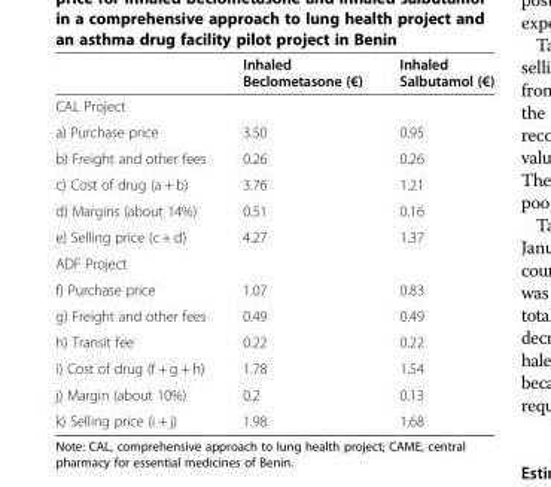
<table><thead><tr><td></td><td>Inhaled Beclometasone (€)</td><td>Inhaled Salbutamol (€)</td></tr></thead><tbody><tr><td colspan="3">CAL Project</td></tr><tr><td>a) Purchase price</td><td>3.50</td><td>0.95</td></tr><tr><td>b) Freight and other fees</td><td>0.26</td><td>0.26</td></tr><tr><td>c) Cost of drug (a + b)</td><td>3.76</td><td>1.21</td></tr><tr><td>d) Margins (about 14%)</td><td>0.51</td><td>0.16</td></tr><tr><td>e) Selling price (c + d)</td><td>4.27</td><td>1.37</td></tr><tr><td colspan="3">ADF Project</td></tr><tr><td>f) Purchase price</td><td>1.07</td><td>0.83</td></tr><tr><td>g) Freight and other fees</td><td>0.49</td><td>0.49</td></tr><tr><td>h) Transit fee</td><td>0.22</td><td>0.22</td></tr><tr><td>i) Cost of drug (f + g + h)</td><td>1.78</td><td>1.54</td></tr><tr><td>j) Margin (about 10%)</td><td>0.2</td><td>0.13</td></tr><tr><td>k) Selling price (i + j)</td><td>1.98</td><td>1.68</td></tr></tbody></table>